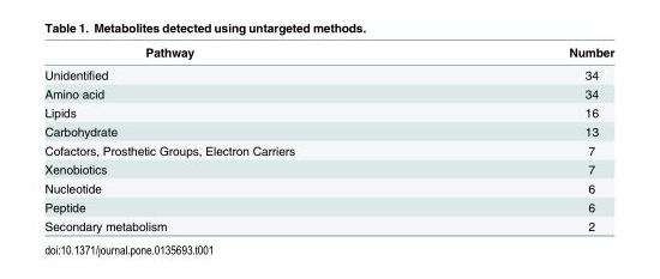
<table><thead><tr><td>Pathway</td><td>Number</td></tr></thead><tbody><tr><td>Unidentified</td><td>34</td></tr><tr><td>Amino acid</td><td>34</td></tr><tr><td>Lipids</td><td>16</td></tr><tr><td>Carbohydrate</td><td>13</td></tr><tr><td>Cofactors, Prosthetic Groups, Electron Carriers</td><td>7</td></tr><tr><td>Xenobiotics</td><td>7</td></tr><tr><td>Nucleotide</td><td>6</td></tr><tr><td>Peptide</td><td>6</td></tr><tr><td>Secondary metabolism</td><td>2</td></tr></tbody></table>